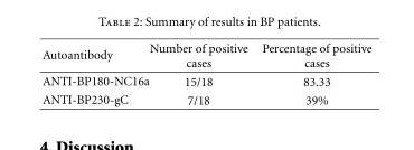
<table><thead><tr><td>Autoantibody</td><td>Number of positive cases</td><td>Percentage of positive cases</td></tr></thead><tbody><tr><td>ANTI-BP180-NC16a</td><td>15/18</td><td>83.33</td></tr><tr><td>ANTI-BP230-gC</td><td>7/18</td><td>39%</td></tr></tbody></table>